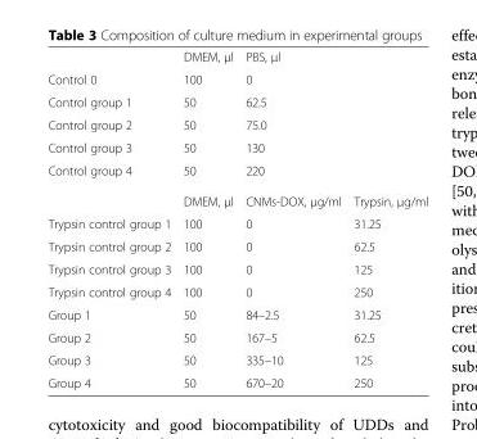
<table><thead><tr><td></td><td>DMEM, μl</td><td colspan="2">PBS, μl</td></tr></thead><tbody><tr><td>Control 0</td><td>100</td><td colspan="2">0</td></tr><tr><td>Control group 1</td><td>50</td><td colspan="2">62.5</td></tr><tr><td>Control group 2</td><td>50</td><td colspan="2">75.0</td></tr><tr><td>Control group 3</td><td>50</td><td colspan="2">130</td></tr><tr><td rowspan="2">Control group 4</td><td>50</td><td colspan="2">220</td></tr><tr><td>DMEM, μl</td><td>CNMs-DOX, μg/ml</td><td>Trypsin, μg/ml</td></tr><tr><td>Trypsin control group 1</td><td>100</td><td>0</td><td>31.25</td></tr><tr><td>Trypsin control group 2</td><td>100</td><td>0</td><td>62.5</td></tr><tr><td>Trypsin control group 3</td><td>100</td><td>0</td><td>125</td></tr><tr><td>Trypsin control group 4</td><td>100</td><td>0</td><td>250</td></tr><tr><td>Group 1</td><td>50</td><td>84–2.5</td><td>31.25</td></tr><tr><td>Group 2</td><td>50</td><td>167–5</td><td>62.5</td></tr><tr><td>Group 3</td><td>50</td><td>335–10</td><td>125</td></tr><tr><td>Group 4</td><td>50</td><td>670–20</td><td>250</td></tr></tbody></table>